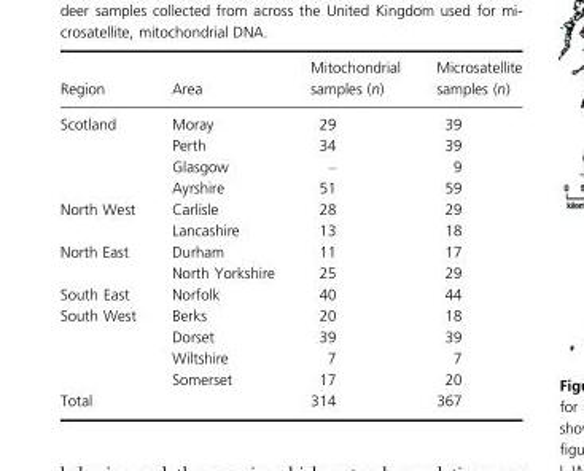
<table><thead><tr><td>Region</td><td>Area</td><td>Mitochondrial samples (n)</td><td>Microsatellite samples (n)</td></tr></thead><tbody><tr><td rowspan="4">Scotland</td><td>Moray</td><td>29</td><td>39</td></tr><tr><td>Perth</td><td>34</td><td>39</td></tr><tr><td>Glasgow</td><td>–</td><td>9</td></tr><tr><td>Ayrshire</td><td>51</td><td>59</td></tr><tr><td rowspan="2">North West</td><td>Carlisle</td><td>28</td><td>29</td></tr><tr><td>Lancashire</td><td>13</td><td>18</td></tr><tr><td rowspan="2">North East</td><td>Durham</td><td>11</td><td>17</td></tr><tr><td>North Yorkshire</td><td>25</td><td>29</td></tr><tr><td>South East</td><td>Norfolk</td><td>40</td><td>44</td></tr><tr><td rowspan="4">South West</td><td>Berks</td><td>20</td><td>18</td></tr><tr><td>Dorset</td><td>39</td><td>39</td></tr><tr><td>Wiltshire</td><td>7</td><td>7</td></tr><tr><td>Somerset</td><td>17</td><td>20</td></tr><tr><td>Total</td><td></td><td>314</td><td>367</td></tr></tbody></table>